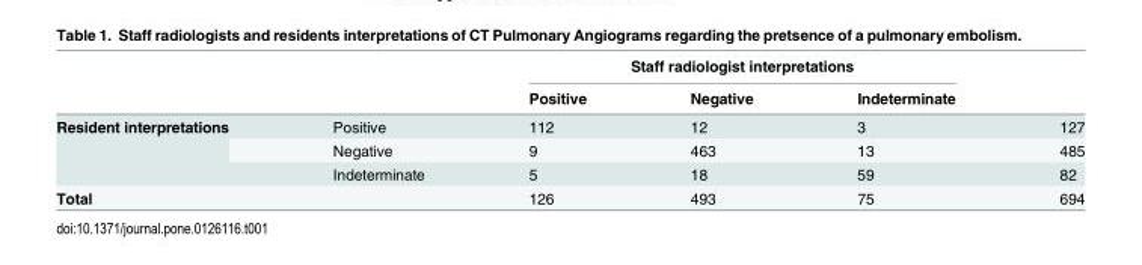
<table><thead><tr><td rowspan="2"></td><td rowspan="2"></td><td colspan="3">Staff radiologist interpretations</td><td rowspan="2"></td></tr><tr><td>Positive</td><td>Negative</td><td>Indeterminate</td></tr></thead><tbody><tr><td rowspan="3">Resident interpretations</td><td>Positive</td><td>112</td><td>12</td><td>3</td><td>127</td></tr><tr><td>Negative</td><td>9</td><td>463</td><td>13</td><td>485</td></tr><tr><td>Indeterminate</td><td>5</td><td>18</td><td>59</td><td>82</td></tr><tr><td>Total</td><td></td><td>126</td><td>493</td><td>75</td><td>694</td></tr></tbody></table>